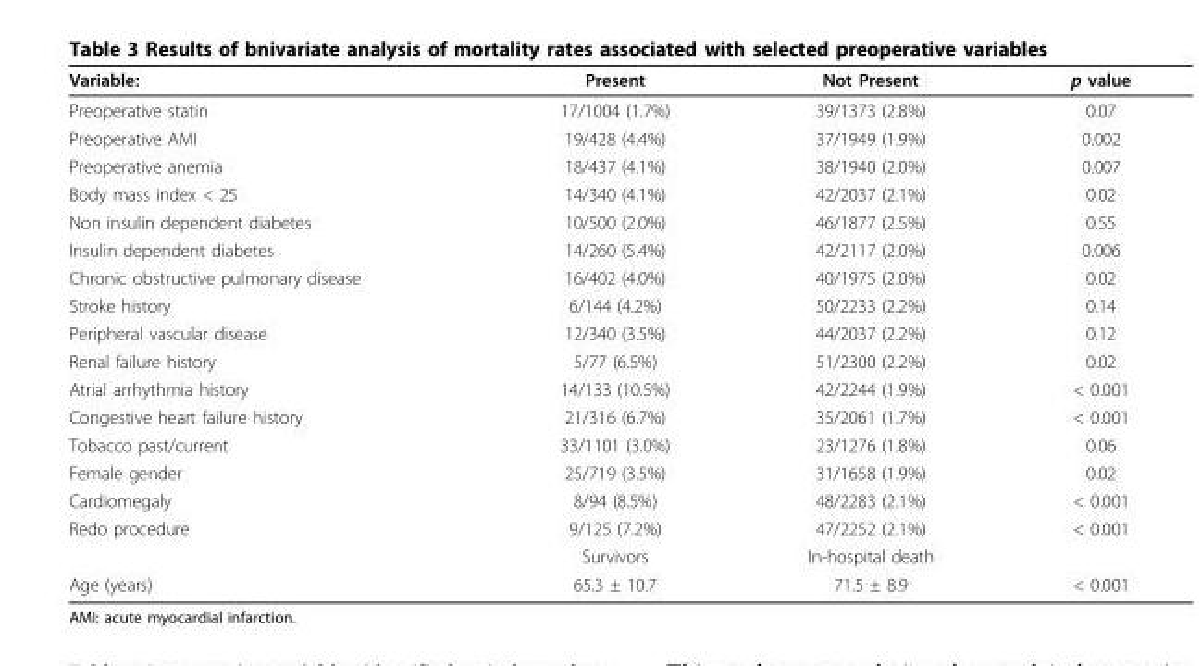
<table><thead><tr><td>Variable:</td><td>Present</td><td>Not Present</td><td>p value</td></tr></thead><tbody><tr><td>Preoperative statin</td><td>17/1004 (1.7%)</td><td>39/1373 (2.8%)</td><td>0.07</td></tr><tr><td>Preoperative AMI</td><td>19/428 (4.4%)</td><td>37/1949 (1.9%)</td><td>0.002</td></tr><tr><td>Preoperative anemia</td><td>18/437 (4.1%)</td><td>38/1940 (2.0%)</td><td>0.007</td></tr><tr><td>Body mass index &lt; 25</td><td>14/340 (4.1%)</td><td>42/2037 (2.1%)</td><td>0.02</td></tr><tr><td>Non insulin dependent diabetes</td><td>10/500 (2.0%)</td><td>46/1877 (2.5%)</td><td>0.55</td></tr><tr><td>Insulin dependent diabetes</td><td>14/260 (5.4%)</td><td>42/2117 (2.0%)</td><td>0.006</td></tr><tr><td>Chronic obstructive pulmonary disease</td><td>16/402 (4.0%)</td><td>40/1975 (2.0%)</td><td>0.02</td></tr><tr><td>Stroke history</td><td>6/144 (4.2%)</td><td>50/2233 (2.2%)</td><td>0.14</td></tr><tr><td>Peripheral vascular disease</td><td>12/340 (3.5%)</td><td>44/2037 (2.2%)</td><td>0.12</td></tr><tr><td>Renal failure history</td><td>5/77 (6.5%)</td><td>51/2300 (2.2%)</td><td>0.02</td></tr><tr><td>Atrial arrhythmia history</td><td>14/133 (10.5%)</td><td>42/2244 (1.9%)</td><td>&lt; 0.001</td></tr><tr><td>Congestive heart failure history</td><td>21/316 (6.7%)</td><td>35/2061 (1.7%)</td><td>&lt; 0.001</td></tr><tr><td>Tobacco past/current</td><td>33/1101 (3.0%)</td><td>23/1276 (1.8%)</td><td>0.06</td></tr><tr><td>Female gender</td><td>25/719 (3.5%)</td><td>31/1658 (1.9%)</td><td>0.02</td></tr><tr><td>Cardiomegaly</td><td>8/94 (8.5%)</td><td>48/2283 (2.1%)</td><td>&lt; 0.001</td></tr><tr><td rowspan="2">Redo procedure</td><td>9/125 (7.2%)</td><td>47/2252 (2.1%)</td><td>&lt; 0.001</td></tr><tr><td>Survivors</td><td>In-hospital death</td><td></td></tr><tr><td>Age (years)</td><td>65.3 ± 10.7</td><td>71.5 ± 8.9</td><td>&lt; 0.001</td></tr></tbody></table>